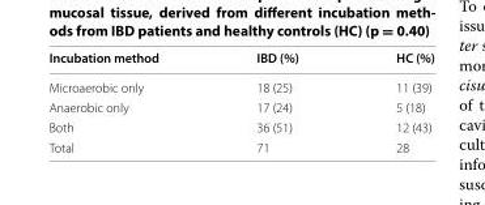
<table><thead><tr><td>Incubation method</td><td>IBD (%)</td><td>HC (%)</td></tr></thead><tbody><tr><td>Microaerobic only</td><td>18 (25)</td><td>11 (39)</td></tr><tr><td>Anaerobic only</td><td>17 (24)</td><td>5 (18)</td></tr><tr><td>Both</td><td>36 (51)</td><td>12 (43)</td></tr><tr><td>Total</td><td>71</td><td>28</td></tr></tbody></table>